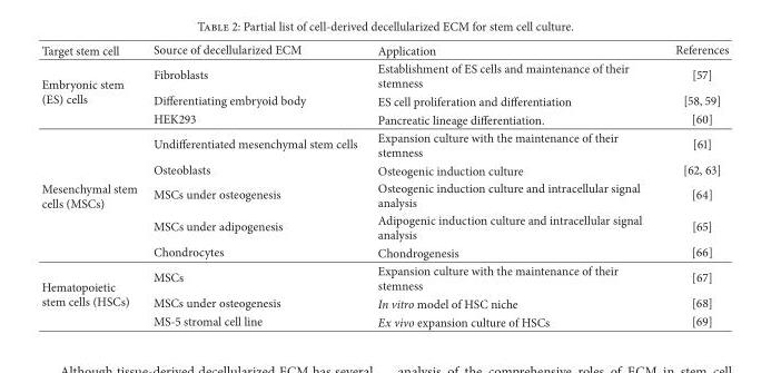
<table><thead><tr><td>Target stem cell</td><td>Source of decellularized ECM</td><td>Application</td><td>References</td></tr></thead><tbody><tr><td rowspan="3">Embryonic stem (ES) cells</td><td>Fibroblasts</td><td>Establishment of ES cells and maintenance of their stemness</td><td>[57]</td></tr><tr><td>Differentiating embryoid body</td><td>ES cell proliferation and differentiation</td><td>[58, 59]</td></tr><tr><td>HEK293</td><td>Pancreatic lineage differentiation.</td><td>[60]</td></tr><tr><td rowspan="5">Mesenchymal stem cells (MSCs)</td><td>Undifferentiated mesenchymal stem cells</td><td>Expansion culture with the maintenance of their stemness</td><td>[61]</td></tr><tr><td>Osteoblasts</td><td>Osteogenic induction culture</td><td>[62, 63]</td></tr><tr><td>MSCs under osteogenesis</td><td>Osteogenic induction culture and intracellular signal analysis</td><td>[64]</td></tr><tr><td>MSCs under adipogenesis</td><td>Adipogenic induction culture and intracellular signal analysis</td><td>[65]</td></tr><tr><td>Chondrocytes</td><td>Chondrogenesis</td><td>[66]</td></tr><tr><td rowspan="3">Hematopoietic stem cells (HSCs)</td><td>MSCs</td><td>Expansion culture with the maintenance of their stemness</td><td>[67]</td></tr><tr><td>MSCs under osteogenesis</td><td>In vitro model of HSC niche</td><td>[68]</td></tr><tr><td>MS-5 stromal cell line</td><td>Ex vivo expansion culture of HSCs</td><td>[69]</td></tr></tbody></table>